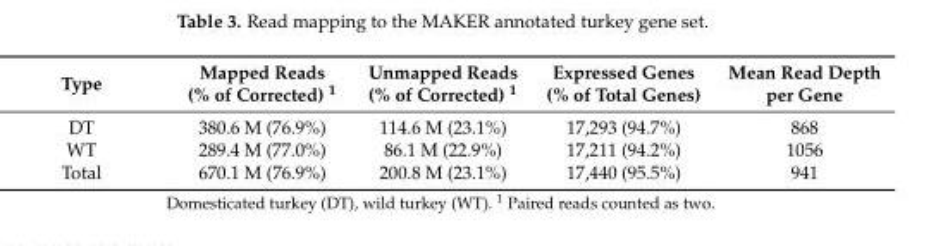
<table><thead><tr><td>Type</td><td>Mapped Reads (% of Corrected) <sup>1</sup></td><td>Unmapped Reads (% of Corrected) <sup>1</sup></td><td>Expressed Genes (% of Total Genes)</td><td>Mean Read Depth per Gene</td></tr></thead><tbody><tr><td>DT</td><td>380.6 M (76.9%)</td><td>114.6 M (23.1%)</td><td>17,293 (94.7%)</td><td>868</td></tr><tr><td>WT</td><td>289.4 M (77.0%)</td><td>86.1 M (22.9%)</td><td>17,211 (94.2%)</td><td>1056</td></tr><tr><td>Total</td><td>670.1 M (76.9%)</td><td>200.8 M (23.1%)</td><td>17,440 (95.5%)</td><td>941</td></tr></tbody></table>